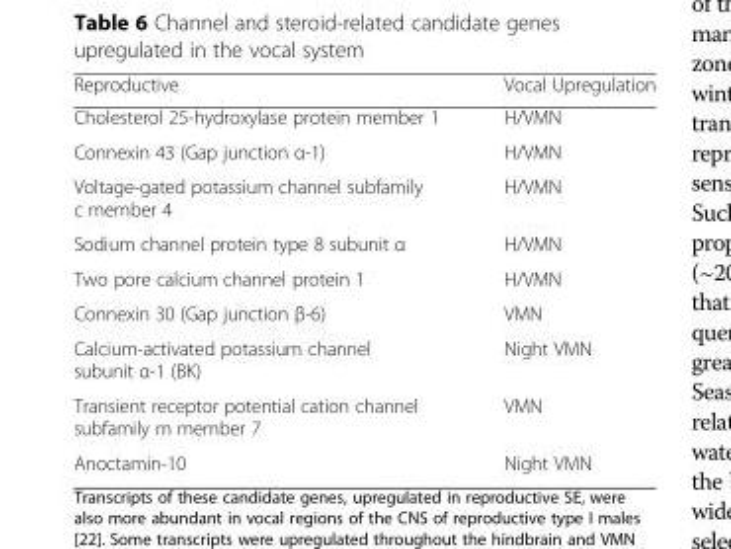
<table><thead><tr><td>Reproductive</td><td>Vocal Upregulation</td></tr></thead><tbody><tr><td>Cholesterol 25-hydroxylase protein member 1</td><td>H/VMN</td></tr><tr><td>Connexin 43 (Gap junction α-1)</td><td>H/VMN</td></tr><tr><td>Voltage-gated potassium channel subfamily c member 4</td><td>H/VMN</td></tr><tr><td>Sodium channel protein type 8 subunit α</td><td>H/VMN</td></tr><tr><td>Two pore calcium channel protein 1</td><td>H/VMN</td></tr><tr><td>Connexin 30 (Gap junction β-6)</td><td>VMN</td></tr><tr><td>Calcium-activated potassium channel subunit α-1 (BK)</td><td>Night VMN</td></tr><tr><td>Transient receptor potential cation channel subfamily m member 7</td><td>VMN</td></tr><tr><td>Anoctamin-10</td><td>Night VMN</td></tr></tbody></table>